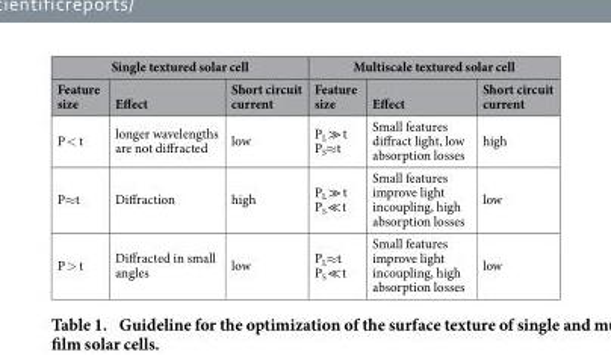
<table><thead><tr><td colspan="3">Single textured solar cell</td><td colspan="3">Multiscale textured solar cell</td></tr><tr><td>Feature size</td><td>Effect</td><td>Short circuit current</td><td>Feature size</td><td>Effect</td><td>Short circuit current</td></tr></thead><tbody><tr><td>P &lt; t</td><td>longer wavelengths are not diffracted</td><td>low</td><td>P<sub>L</sub> ≫ t P<sub>S</sub>≈ t</td><td>Small features diffract light, low absorption losses</td><td>high</td></tr><tr><td>P≈ t</td><td>Diffraction</td><td>high</td><td>P<sub>L</sub> ≫ t P<sub>S</sub> ≪ t</td><td>Small features improve light incoupling, high absorption losses</td><td>low</td></tr><tr><td>P &gt; t</td><td>Diffracted in small angles</td><td>low</td><td>P<sub>L</sub>≈ t P<sub>S</sub> ≪ t</td><td>Small features improve light incoupling, high absorption losses</td><td>low</td></tr></tbody></table>